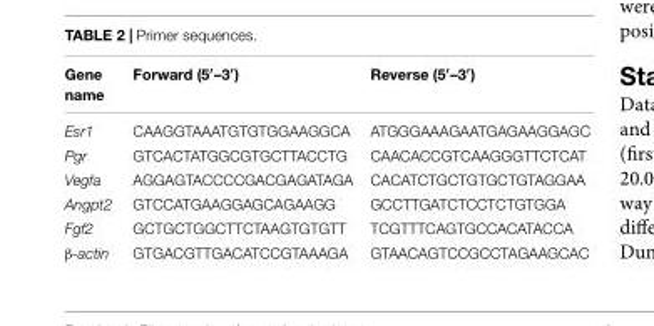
<table><thead><tr><td>Gene name</td><td>Forward (5′–3′)</td><td>Reverse (5′–3′)</td></tr></thead><tbody><tr><td>Esr1</td><td>CAAGGTAAATGTGTGGAAGGCA</td><td>ATGGGAAAGAATGAGAAGGAGC</td></tr><tr><td>Pgr</td><td>GTCACTATGGCGTGCTTACCTG</td><td>CAACACCGTCAAGGGTTCTCAT</td></tr><tr><td>Vegfa</td><td>AGGAGTACCCCGACGAGATAGA</td><td>CACATCTGCTGTGCTGTAGGAA</td></tr><tr><td>Angpt2</td><td>GTCCATGAAGGAGCAGAAGG</td><td>GCCTTGATCTCCTCTGTGGA</td></tr><tr><td>Fgf2</td><td>GCTGCTGGCTTCTAAGTGTGTT</td><td>TCGTTTCAGTGCCACATACCA</td></tr><tr><td>β-actin</td><td>GTGACGTTGACATCCGTAAAGA</td><td>GTAACAGTCCGCCTAGAAGCAC</td></tr></tbody></table>